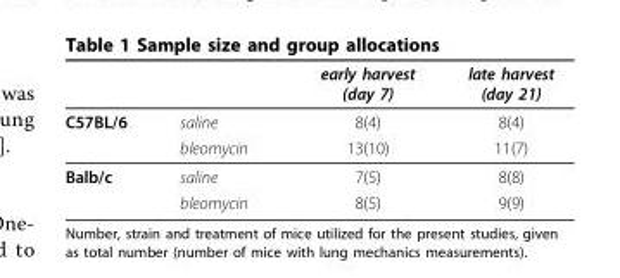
<table><thead><tr><td></td><td></td><td>early harvest (day 7)</td><td>late harvest (day 21)</td></tr></thead><tbody><tr><td rowspan="2">C57BL/6</td><td>saline</td><td>8(4)</td><td>8(4)</td></tr><tr><td>bleomycin</td><td>13(10)</td><td>11(7)</td></tr><tr><td rowspan="2">Balb/c</td><td>saline</td><td>7(5)</td><td>8(8)</td></tr><tr><td>bleomycin</td><td>8(5)</td><td>9(9)</td></tr></tbody></table>